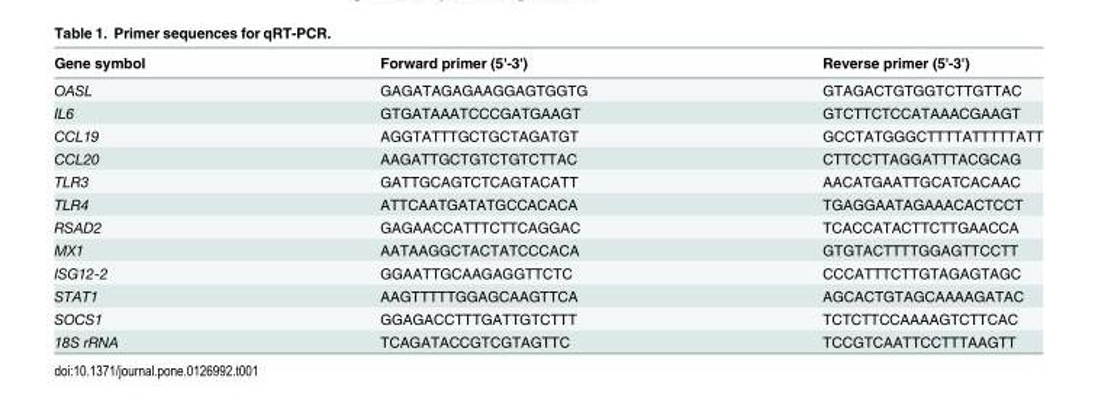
<table><thead><tr><td>Gene symbol</td><td>Forward primer (5&#x27;-3&#x27;)</td><td>Reverse primer (5&#x27;-3&#x27;)</td></tr></thead><tbody><tr><td>OASL</td><td>GAGATAGAGAAGGAGTGGTG</td><td>GTAGACTGTGGTCTTGTTAC</td></tr><tr><td>IL6</td><td>GTGATAAATCCCGATGAAGT</td><td>GTCTTCTCCATAAACGAAGT</td></tr><tr><td>CCL19</td><td>AGGTATTTGCTGCTAGATGT</td><td>GCCTATGGGCTTTTATTTTTATT</td></tr><tr><td>CCL20</td><td>AAGATTGCTGTCTGTCTTAC</td><td>CTTCCTTAGGATTTACGCAG</td></tr><tr><td>TLR3</td><td>GATTGCAGTCTCAGTACATT</td><td>AACATGAATTGCATCACAAC</td></tr><tr><td>TLR4</td><td>ATTCAATGATATGCCACACA</td><td>TGAGGAATAGAAACACTCCT</td></tr><tr><td>RSAD2</td><td>GAGAACCATTTCTTCAGGAC</td><td>TCACCATACTTCTTGAACCA</td></tr><tr><td>MX1</td><td>AATAAGGCTACTATCCCACA</td><td>GTGTACTTTTGGAGTTCCTT</td></tr><tr><td>ISG12-2</td><td>GGAATTGCAAGAGGTTCTC</td><td>CCCATTTCTTGTAGAGTAGC</td></tr><tr><td>STAT1</td><td>AAGTTTTTGGAGCAAGTTCA</td><td>AGCACTGTAGCAAAAGATAC</td></tr><tr><td>SOCS1</td><td>GGAGACCTTTGATTGTCTTT</td><td>TCTCTTCCAAAAGTCTTCAC</td></tr><tr><td>18S rRNA</td><td>TCAGATACCGTCGTAGTTC</td><td>TCCGTCAATTCCTTTAAGTT</td></tr></tbody></table>